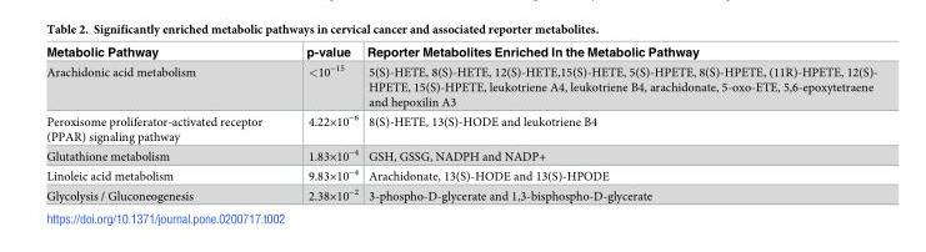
<table><thead><tr><td>Metabolic Pathway</td><td>p-value</td><td>Reporter Metabolites Enriched In the Metabolic Pathway</td></tr></thead><tbody><tr><td>Arachidonic acid metabolism</td><td>&lt;10<sup>−15</sup></td><td>5(S)-HETE, 8(S)-HETE, 12(S)-HETE,15(S)-HETE, 5(S)-HPETE, 8(S)-HPETE, (11R)-HPETE, 12(S)- HPETE, 15(S)-HPETE, leukotriene A4, leukotriene B4, arachidonate, 5-oxo-ETE, 5,6-epoxytetraene and hepoxilin A3</td></tr><tr><td>Peroxisome proliferator-activated receptor (PPAR) signaling pathway</td><td>4.22×10<sup>−6</sup></td><td>8(S)-HETE, 13(S)-HODE and leukotriene B4</td></tr><tr><td>Glutathione metabolism</td><td>1.83×10<sup>−4</sup></td><td>GSH, GSSG, NADPH and NADP+</td></tr><tr><td>Linoleic acid metabolism</td><td>9.83×10<sup>−4</sup></td><td>Arachidonate, 13(S)-HODE and 13(S)-HPODE</td></tr><tr><td>Glycolysis / Gluconeogenesis</td><td>2.38×10<sup>−2</sup></td><td>3-phospho-D-glycerate and 1,3-bisphospho-D-glycerate</td></tr></tbody></table>